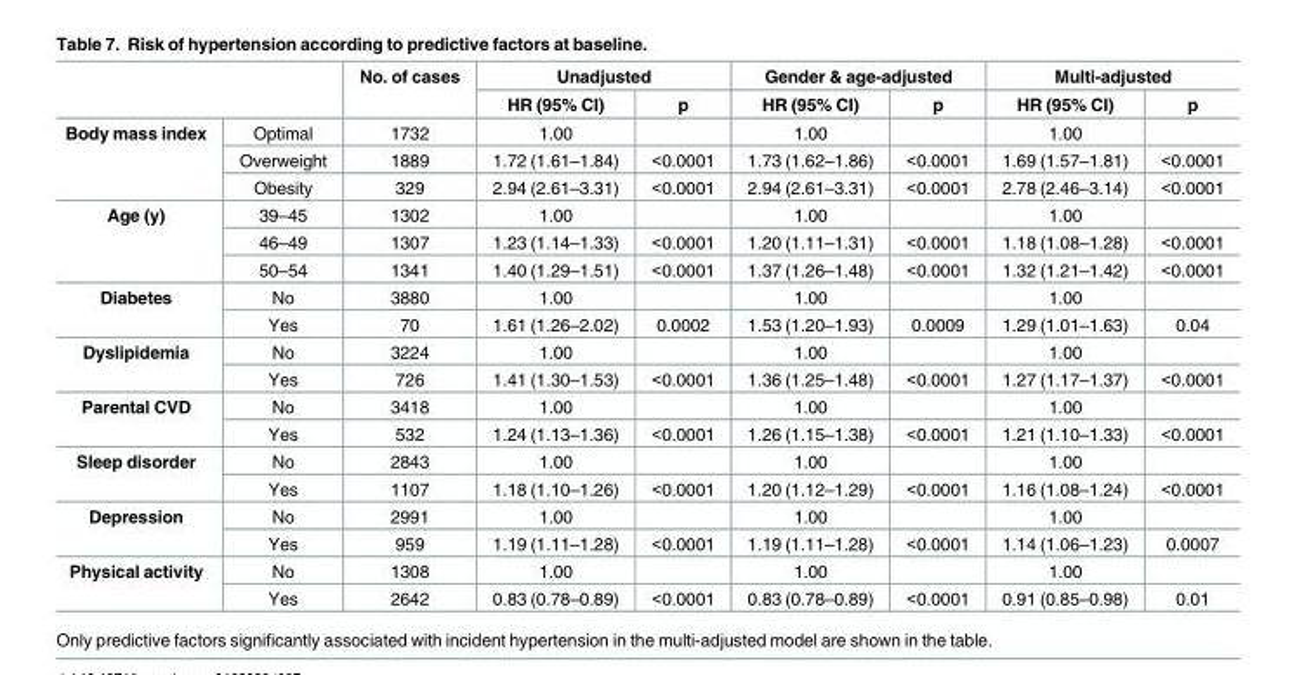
<table><thead><tr><td rowspan="2"></td><td rowspan="2"></td><td rowspan="2">No. of cases</td><td colspan="2">Unadjusted</td><td colspan="2">Gender &amp; age-adjusted</td><td colspan="2">Multi-adjusted</td></tr><tr><td>HR (95% CI)</td><td>p</td><td>HR (95% CI)</td><td>p</td><td>HR (95% CI)</td><td>p</td></tr></thead><tbody><tr><td rowspan="3">Body mass index</td><td>Optimal</td><td>1732</td><td>1.00</td><td></td><td>1.00</td><td></td><td>1.00</td><td></td></tr><tr><td>Overweight</td><td>1889</td><td>1.72 (1.61–1.84)</td><td>&lt;0.0001</td><td>1.73 (1.62–1.86)</td><td>&lt;0.0001</td><td>1.69 (1.57–1.81)</td><td>&lt;0.0001</td></tr><tr><td>Obesity</td><td>329</td><td>2.94 (2.61–3.31)</td><td>&lt;0.0001</td><td>2.94 (2.61–3.31)</td><td>&lt;0.0001</td><td>2.78 (2.46–3.14)</td><td>&lt;0.0001</td></tr><tr><td rowspan="3">Age (y)</td><td>39–45</td><td>1302</td><td>1.00</td><td></td><td>1.00</td><td></td><td>1.00</td><td></td></tr><tr><td>46–49</td><td>1307</td><td>1.23 (1.14–1.33)</td><td>&lt;0.0001</td><td>1.20 (1.11–1.31)</td><td>&lt;0.0001</td><td>1.18 (1.08–1.28)</td><td>&lt;0.0001</td></tr><tr><td>50–54</td><td>1341</td><td>1.40 (1.29–1.51)</td><td>&lt;0.0001</td><td>1.37 (1.26–1.48)</td><td>&lt;0.0001</td><td>1.32 (1.21–1.42)</td><td>&lt;0.0001</td></tr><tr><td rowspan="2">Diabetes</td><td>No</td><td>3880</td><td>1.00</td><td></td><td>1.00</td><td></td><td>1.00</td><td></td></tr><tr><td>Yes</td><td>70</td><td>1.61 (1.26–2.02)</td><td>0.0002</td><td>1.53 (1.20–1.93)</td><td>0.0009</td><td>1.29 (1.01–1.63)</td><td>0.04</td></tr><tr><td rowspan="2">Dyslipidemia</td><td>No</td><td>3224</td><td>1.00</td><td></td><td>1.00</td><td></td><td>1.00</td><td></td></tr><tr><td>Yes</td><td>726</td><td>1.41 (1.30–1.53)</td><td>&lt;0.0001</td><td>1.36 (1.25–1.48)</td><td>&lt;0.0001</td><td>1.27 (1.17–1.37)</td><td>&lt;0.0001</td></tr><tr><td rowspan="2">Parental CVD</td><td>No</td><td>3418</td><td>1.00</td><td></td><td>1.00</td><td></td><td>1.00</td><td></td></tr><tr><td>Yes</td><td>532</td><td>1.24 (1.13–1.36)</td><td>&lt;0.0001</td><td>1.26 (1.15–1.38)</td><td>&lt;0.0001</td><td>1.21 (1.10–1.33)</td><td>&lt;0.0001</td></tr><tr><td rowspan="2">Sleep disorder</td><td>No</td><td>2843</td><td>1.00</td><td></td><td>1.00</td><td></td><td>1.00</td><td></td></tr><tr><td>Yes</td><td>1107</td><td>1.18 (1.10–1.26)</td><td>&lt;0.0001</td><td>1.20 (1.12–1.29)</td><td>&lt;0.0001</td><td>1.16 (1.08–1.24)</td><td>&lt;0.0001</td></tr><tr><td rowspan="2">Depression</td><td>No</td><td>2991</td><td>1.00</td><td></td><td>1.00</td><td></td><td>1.00</td><td></td></tr><tr><td>Yes</td><td>959</td><td>1.19 (1.11–1.28)</td><td>&lt;0.0001</td><td>1.19 (1.11–1.28)</td><td>&lt;0.0001</td><td>1.14 (1.06–1.23)</td><td>0.0007</td></tr><tr><td rowspan="2">Physical activity</td><td>No</td><td>1308</td><td>1.00</td><td></td><td>1.00</td><td></td><td>1.00</td><td></td></tr><tr><td>Yes</td><td>2642</td><td>0.83 (0.78–0.89)</td><td>&lt;0.0001</td><td>0.83 (0.78–0.89)</td><td>&lt;0.0001</td><td>0.91 (0.85–0.98)</td><td>0.01</td></tr></tbody></table>